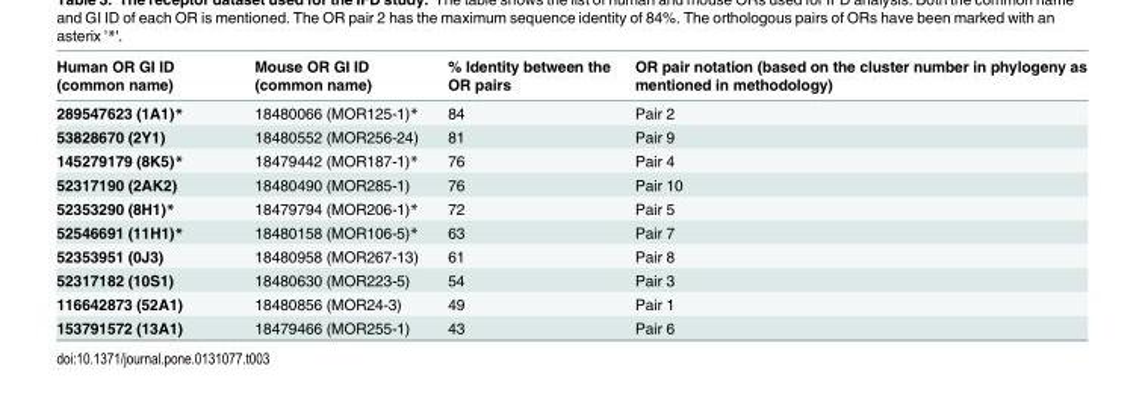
<table><thead><tr><td>Human OR GI ID (common name)</td><td>Mouse OR GI ID (common name)</td><td>% Identity between the OR pairs</td><td>OR pair notation (based on the cluster number in phylogeny as mentioned in methodology)</td></tr></thead><tbody><tr><td>289547623 (1A1)*</td><td>18480066 (MOR125-1)*</td><td>84</td><td>Pair 2</td></tr><tr><td>53828670 (2Y1)</td><td>18480552 (MOR256-24)</td><td>81</td><td>Pair 9</td></tr><tr><td>145279179 (8K5)*</td><td>18479442 (MOR187-1)*</td><td>76</td><td>Pair 4</td></tr><tr><td>52317190 (2AK2)</td><td>18480490 (MOR285-1)</td><td>76</td><td>Pair 10</td></tr><tr><td>52353290 (8H1)*</td><td>18479794 (MOR206-1)*</td><td>72</td><td>Pair 5</td></tr><tr><td>52546691 (11H1)*</td><td>18480158 (MOR106-5)*</td><td>63</td><td>Pair 7</td></tr><tr><td>52353951 (0J3)</td><td>18480958 (MOR267-13)</td><td>61</td><td>Pair 8</td></tr><tr><td>52317182 (10S1)</td><td>18480630 (MOR223-5)</td><td>54</td><td>Pair 3</td></tr><tr><td>116642873 (52A1)</td><td>18480856 (MOR24-3)</td><td>49</td><td>Pair 1</td></tr><tr><td>153791572 (13A1)</td><td>18479466 (MOR255-1)</td><td>43</td><td>Pair 6</td></tr></tbody></table>